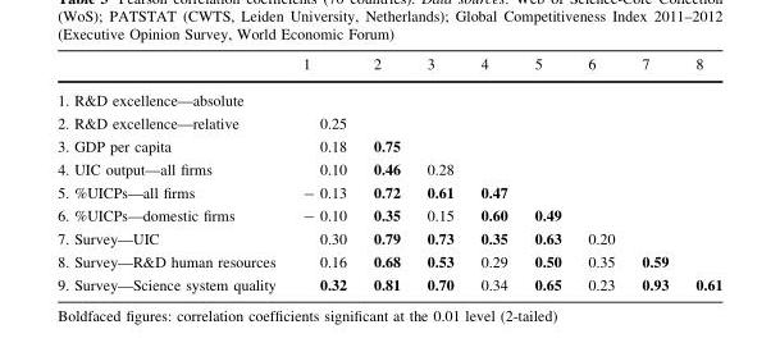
<table><thead><tr><td></td><td>1</td><td>2</td><td>3</td><td>4</td><td>5</td><td>6</td><td>7</td><td>8</td></tr></thead><tbody><tr><td colspan="9">1. R&amp;D excellence—absolute</td></tr><tr><td>2. R&amp;D excellence—relative</td><td>0.25</td><td></td><td></td><td></td><td></td><td></td><td></td><td></td></tr><tr><td>3. GDP per capita</td><td>0.18</td><td>0.75</td><td></td><td></td><td></td><td></td><td></td><td></td></tr><tr><td>4. UIC output—all firms</td><td>0.10</td><td>0.46</td><td>0.28</td><td></td><td></td><td></td><td></td><td></td></tr><tr><td>5. %UICPs—all firms</td><td>- 0.13</td><td>0.72</td><td>0.61</td><td>0.47</td><td></td><td></td><td></td><td></td></tr><tr><td>6. %UICPs—domestic firms</td><td>- 0.10</td><td>0.35</td><td>0.15</td><td>0.60</td><td>0.49</td><td></td><td></td><td></td></tr><tr><td>7. Survey—UIC</td><td>0.30</td><td>0.79</td><td>0.73</td><td>0.35</td><td>0.63</td><td>0.20</td><td></td><td></td></tr><tr><td>8. Survey—R&amp;D human resources</td><td>0.16</td><td>0.68</td><td>0.53</td><td>0.29</td><td>0.50</td><td>0.35</td><td>0.59</td><td></td></tr><tr><td>9. Survey—Science system quality</td><td>0.32</td><td>0.81</td><td>0.70</td><td>0.34</td><td>0.65</td><td>0.23</td><td>0.93</td><td>0.61</td></tr></tbody></table>